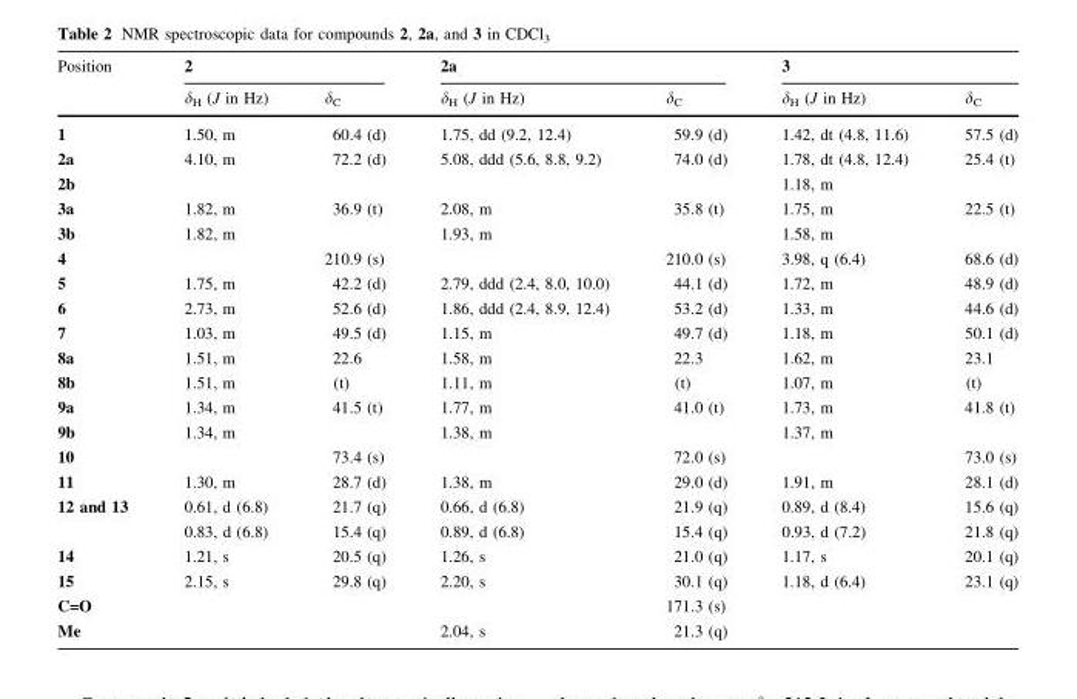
<table><thead><tr><td rowspan="2">Position</td><td colspan="2">2</td><td colspan="2">2a</td><td colspan="2">3</td></tr><tr><td>δ<sub>H</sub> (J in Hz)</td><td>δ<sub>C</sub></td><td>δ<sub>H</sub> (J in Hz)</td><td>δ<sub>C</sub></td><td>δ<sub>H</sub> (J in Hz)</td><td>δ<sub>C</sub></td></tr></thead><tbody><tr><td>1</td><td>1.50, m</td><td>60.4 (d)</td><td>1.75, dd (9.2, 12.4)</td><td>59.9 (d)</td><td>1.42, dt (4.8, 11.6)</td><td>57.5 (d)</td></tr><tr><td>2a</td><td>4.10, m</td><td>72.2 (d)</td><td>5.08, ddd (5.6, 8.8, 9.2)</td><td>74.0 (d)</td><td>1.78, dt (4.8, 12.4)</td><td>25.4 (t)</td></tr><tr><td>2b</td><td></td><td></td><td></td><td></td><td>1.18, m</td><td></td></tr><tr><td>3a</td><td>1.82, m</td><td>36.9 (t)</td><td>2.08, m</td><td>35.8 (t)</td><td>1.75, m</td><td>22.5 (t)</td></tr><tr><td>3b</td><td>1.82, m</td><td></td><td>1.93, m</td><td></td><td>1.58, m</td><td></td></tr><tr><td>4</td><td></td><td>210.9 (s)</td><td></td><td>210.0 (s)</td><td>3.98, q (6.4)</td><td>68.6 (d)</td></tr><tr><td>5</td><td>1.75, m</td><td>42.2 (d)</td><td>2.79, ddd (2.4, 8.0, 10.0)</td><td>44.1 (d)</td><td>1.72, m</td><td>48.9 (d)</td></tr><tr><td>6</td><td>2.73, m</td><td>52.6 (d)</td><td>1.86, ddd (2.4, 8.9, 12.4)</td><td>53.2 (d)</td><td>1.33, m</td><td>44.6 (d)</td></tr><tr><td>7</td><td>1.03, m</td><td>49.5 (d)</td><td>1.15, m</td><td>49.7 (d)</td><td>1.18, m</td><td>50.1 (d)</td></tr><tr><td>8a</td><td>1.51, m</td><td>22.6</td><td>1.58, m</td><td>22.3</td><td>1.62, m</td><td>23.1</td></tr><tr><td>8b</td><td>1.51, m</td><td>(t)</td><td>1.11, m</td><td>(t)</td><td>1.07, m</td><td>(t)</td></tr><tr><td>9a</td><td>1.34, m</td><td>41.5 (t)</td><td>1.77, m</td><td>41.0 (t)</td><td>1.73, m</td><td>41.8 (t)</td></tr><tr><td>9b</td><td>1.34, m</td><td></td><td>1.38, m</td><td></td><td>1.37, m</td><td></td></tr><tr><td>10</td><td></td><td>73.4 (s)</td><td></td><td>72.0 (s)</td><td></td><td>73.0 (s)</td></tr><tr><td>11</td><td>1.30, m</td><td>28.7 (d)</td><td>1.38, m</td><td>29.0 (d)</td><td>1.91, m</td><td>28.1 (d)</td></tr><tr><td rowspan="2">12 and 13</td><td rowspan="2">0.61, d (6.8) 0.83, d (6.8)</td><td>21.7 (q)</td><td>0.66, d (6.8)</td><td>21.9 (q)</td><td rowspan="2">0.89, d (8.4) 0.93, d (7.2)</td><td>15.6 (q)</td></tr><tr><td>15.4 (q)</td><td>0.89, d (6.8)</td><td>15.4 (q)</td><td>21.8 (q)</td></tr><tr><td>14</td><td>1.21, s</td><td>20.5 (q)</td><td>1.26, s</td><td>21.0 (q)</td><td>1.17, s</td><td>20.1 (q)</td></tr><tr><td>15</td><td>2.15, s</td><td>29.8 (q)</td><td>2.20, s</td><td>30.1 (q)</td><td>1.18, d (6.4)</td><td>23.1 (q)</td></tr><tr><td>C=O</td><td></td><td></td><td></td><td>171.3 (s)</td><td></td><td></td></tr><tr><td>Me</td><td></td><td></td><td>2.04, s</td><td>21.3 (q)</td><td></td><td></td></tr></tbody></table>